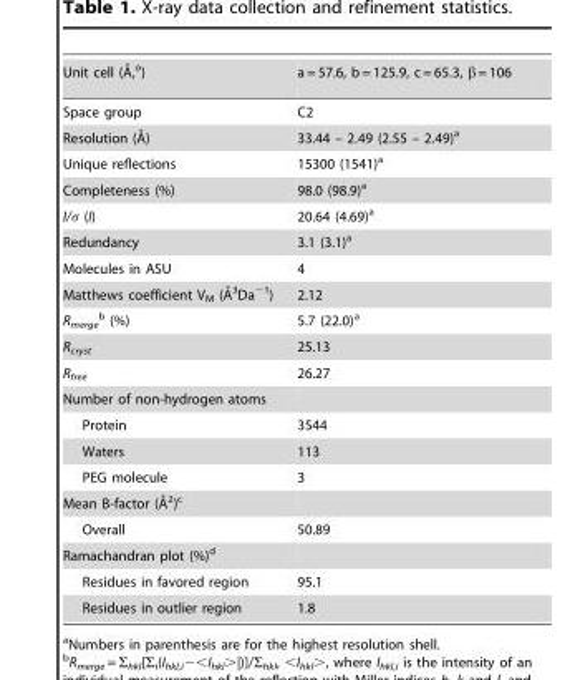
<table><tbody><tr><td>Unit cell (A˚,o)</td><td>a = 57.6, b = 125.9, c = 65.3, β = 106</td></tr><tr><td>Space group</td><td>C2</td></tr><tr><td>Resolution (A˚)</td><td>33.44 – 2.49 (2.55 – 2.49)<sup>a</sup></td></tr><tr><td>Unique reflections</td><td>15300 (1541)<sup>a</sup></td></tr><tr><td>Completeness (%)</td><td>98.0 (98.9)<sup>a</sup></td></tr><tr><td>I/σ (I)</td><td>20.64 (4.69)<sup>a</sup></td></tr><tr><td>Redundancy</td><td>3.1 (3.1)<sup>a</sup></td></tr><tr><td>Molecules in ASU</td><td>4</td></tr><tr><td>Matthews coefficient VM (A˚ 3Da21)</td><td>2.12</td></tr><tr><td>R<sub>merge</sub> b (%)</td><td>5.7 (22.0)<sup>a</sup></td></tr><tr><td>R<sub>cryst</sub></td><td>25.13</td></tr><tr><td>R<sub>free</sub></td><td>26.27</td></tr><tr><td colspan="2">Number of non-hydrogen atoms</td></tr><tr><td>Protein</td><td>3544</td></tr><tr><td>Waters</td><td>113</td></tr><tr><td>PEG molecule</td><td>3</td></tr><tr><td colspan="2">Mean B-factor (A˚ 2)c</td></tr><tr><td>Overall</td><td>50.89</td></tr><tr><td colspan="2">Ramachandran plot (%)<sup>d</sup></td></tr><tr><td>Residues in favored region</td><td>95.1</td></tr><tr><td>Residues in outlier region</td><td>1.8</td></tr></tbody></table>